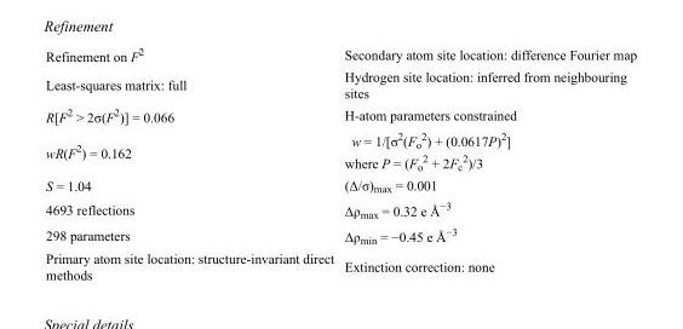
<table><tbody><tr><td>Refinement on F<sup>2</sup></td><td>Secondary atom site location: difference Fourier map</td></tr><tr><td>Least-squares matrix: full</td><td>Hydrogen site location: inferred from neighbouring sites</td></tr><tr><td>R[F<sup>2</sup> &gt; 2σ(F<sup>2</sup>)] = 0.066</td><td>H-atom parameters constrained</td></tr><tr><td>wR(F<sup>2</sup>) = 0.162</td><td>w = 1/[σ<sup>2</sup>(F<sub>o</sub> <sup>2</sup>) + (0.0617P)<sup>2</sup>] where P = (F<sub>o</sub> <sup>2</sup> + 2F<sub>c</sub> <sup>2</sup>)/3</td></tr><tr><td>S = 1.04</td><td>(Δ/σ)<sub>max</sub> = 0.001</td></tr><tr><td>4693 reflections</td><td>Δρ<sub>max</sub> = 0.32 e Å<sup>−3</sup></td></tr><tr><td>298 parameters</td><td>Δρ<sub>min</sub> = −0.45 e Å<sup>−3</sup></td></tr><tr><td>Primary atom site location: structure-invariant direct methods</td><td>Extinction correction: none</td></tr></tbody></table>